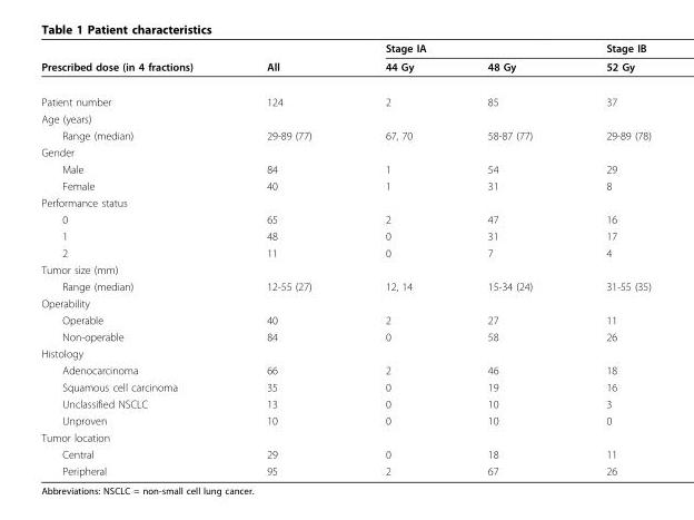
<table><thead><tr><td rowspan="2">Prescribed dose (in 4 fractions)</td><td rowspan="2">All</td><td colspan="2">Stage IA</td><td rowspan="2">Stage IB 52 Gy</td></tr><tr><td>44 Gy</td><td>48 Gy</td></tr></thead><tbody><tr><td>Patient number</td><td>124</td><td>2</td><td>85</td><td>37</td></tr><tr><td colspan="5">Age (years)</td></tr><tr><td>Range (median)</td><td>29-89 (77)</td><td>67, 70</td><td>58-87 (77)</td><td>29-89 (78)</td></tr><tr><td colspan="5">Gender</td></tr><tr><td>Male</td><td>84</td><td>1</td><td>54</td><td>29</td></tr><tr><td>Female</td><td>40</td><td>1</td><td>31</td><td>8</td></tr><tr><td colspan="5">Performance status</td></tr><tr><td>0</td><td>65</td><td>2</td><td>47</td><td>16</td></tr><tr><td>1</td><td>48</td><td>0</td><td>31</td><td>17</td></tr><tr><td>2</td><td>11</td><td>0</td><td>7</td><td>4</td></tr><tr><td colspan="5">Tumor size (mm)</td></tr><tr><td>Range (median)</td><td>12-55 (27)</td><td>12, 14</td><td>15-34 (24)</td><td>31-55 (35)</td></tr><tr><td colspan="5">Operability</td></tr><tr><td>Operable</td><td>40</td><td>2</td><td>27</td><td>11</td></tr><tr><td>Non-operable</td><td>84</td><td>0</td><td>58</td><td>26</td></tr><tr><td colspan="5">Histology</td></tr><tr><td>Adenocarcinoma</td><td>66</td><td>2</td><td>46</td><td>18</td></tr><tr><td>Squamous cell carcinoma</td><td>35</td><td>0</td><td>19</td><td>16</td></tr><tr><td>Unclassified NSCLC</td><td>13</td><td>0</td><td>10</td><td>3</td></tr><tr><td>Unproven</td><td>10</td><td>0</td><td>10</td><td>0</td></tr><tr><td colspan="5">Tumor location</td></tr><tr><td>Central</td><td>29</td><td>0</td><td>18</td><td>11</td></tr><tr><td>Peripheral</td><td>95</td><td>2</td><td>67</td><td>26</td></tr></tbody></table>